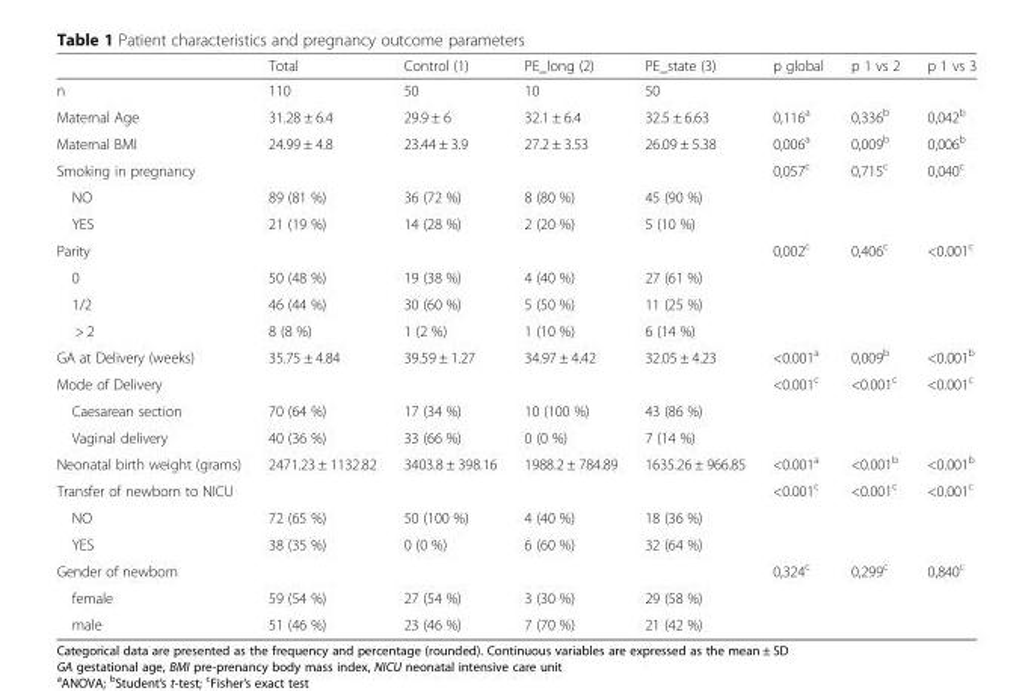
<table><thead><tr><td></td><td>Total</td><td>Control (1)</td><td>PE_long (2)</td><td>PE_state (3)</td><td>p global</td><td>p 1 vs 2</td><td>p 1 vs 3</td></tr></thead><tbody><tr><td>n</td><td>110</td><td>50</td><td>10</td><td>50</td><td></td><td></td><td></td></tr><tr><td>Maternal Age</td><td>31.28 ± 6.4</td><td>29.9 ± 6</td><td>32.1 ± 6.4</td><td>32.5 ± 6.63</td><td>0,116<sup>a</sup></td><td>0,336<sup>b</sup></td><td>0,042<sup>b</sup></td></tr><tr><td>Maternal BMI</td><td>24.99 ± 4.8</td><td>23.44 ± 3.9</td><td>27.2 ± 3.53</td><td>26.09 ± 5.38</td><td>0,006<sup>a</sup></td><td>0,009<sup>b</sup></td><td>0,006<sup>b</sup></td></tr><tr><td>Smoking in pregnancy</td><td></td><td></td><td></td><td></td><td>0,057<sup>c</sup></td><td>0,715<sup>c</sup></td><td>0,040<sup>c</sup></td></tr><tr><td>NO</td><td>89 (81 %)</td><td>36 (72 %)</td><td>8 (80 %)</td><td>45 (90 %)</td><td></td><td></td><td></td></tr><tr><td>YES</td><td>21 (19 %)</td><td>14 (28 %)</td><td>2 (20 %)</td><td>5 (10 %)</td><td></td><td></td><td></td></tr><tr><td>Parity</td><td></td><td></td><td></td><td></td><td>0,002<sup>c</sup></td><td>0,406<sup>c</sup></td><td>&lt;0.001<sup>c</sup></td></tr><tr><td>0</td><td>50 (48 %)</td><td>19 (38 %)</td><td>4 (40 %)</td><td>27 (61 %)</td><td></td><td></td><td></td></tr><tr><td>1/2</td><td>46 (44 %)</td><td>30 (60 %)</td><td>5 (50 %)</td><td>11 (25 %)</td><td></td><td></td><td></td></tr><tr><td>&gt; 2</td><td>8 (8 %)</td><td>1 (2 %)</td><td>1 (10 %)</td><td>6 (14 %)</td><td></td><td></td><td></td></tr><tr><td>GA at Delivery (weeks)</td><td>35.75 ± 4.84</td><td>39.59 ± 1.27</td><td>34.97 ± 4.42</td><td>32.05 ± 4.23</td><td>&lt;0.001<sup>a</sup></td><td>0,009<sup>b</sup></td><td>&lt;0.001<sup>b</sup></td></tr><tr><td>Mode of Delivery</td><td></td><td></td><td></td><td></td><td>&lt;0.001<sup>c</sup></td><td>&lt;0.001<sup>c</sup></td><td>&lt;0.001<sup>c</sup></td></tr><tr><td>Caesarean section</td><td>70 (64 %)</td><td>17 (34 %)</td><td>10 (100 %)</td><td>43 (86 %)</td><td></td><td></td><td></td></tr><tr><td>Vaginal delivery</td><td>40 (36 %)</td><td>33 (66 %)</td><td>0 (0 %)</td><td>7 (14 %)</td><td></td><td></td><td></td></tr><tr><td>Neonatal birth weight (grams)</td><td>2471.23 ± 1132.82</td><td>3403.8 ± 398.16</td><td>1988.2 ± 784.89</td><td>1635.26 ± 966.85</td><td>&lt;0.001<sup>a</sup></td><td>&lt;0.001<sup>b</sup></td><td>&lt;0.001<sup>b</sup></td></tr><tr><td colspan="2">Transfer of newborn to NICU</td><td></td><td></td><td></td><td>&lt;0.001<sup>c</sup></td><td>&lt;0.001<sup>c</sup></td><td>&lt;0.001<sup>c</sup></td></tr><tr><td>NO</td><td>72 (65 %)</td><td>50 (100 %)</td><td>4 (40 %)</td><td>18 (36 %)</td><td></td><td></td><td></td></tr><tr><td>YES</td><td>38 (35 %)</td><td>0 (0 %)</td><td>6 (60 %)</td><td>32 (64 %)</td><td></td><td></td><td></td></tr><tr><td>Gender of newborn</td><td></td><td></td><td></td><td></td><td>0,324<sup>c</sup></td><td>0,299<sup>c</sup></td><td>0,840<sup>c</sup></td></tr><tr><td>female</td><td>59 (54 %)</td><td>27 (54 %)</td><td>3 (30 %)</td><td>29 (58 %)</td><td></td><td></td><td></td></tr><tr><td>male</td><td>51 (46 %)</td><td>23 (46 %)</td><td>7 (70 %)</td><td>21 (42 %)</td><td></td><td></td><td></td></tr></tbody></table>